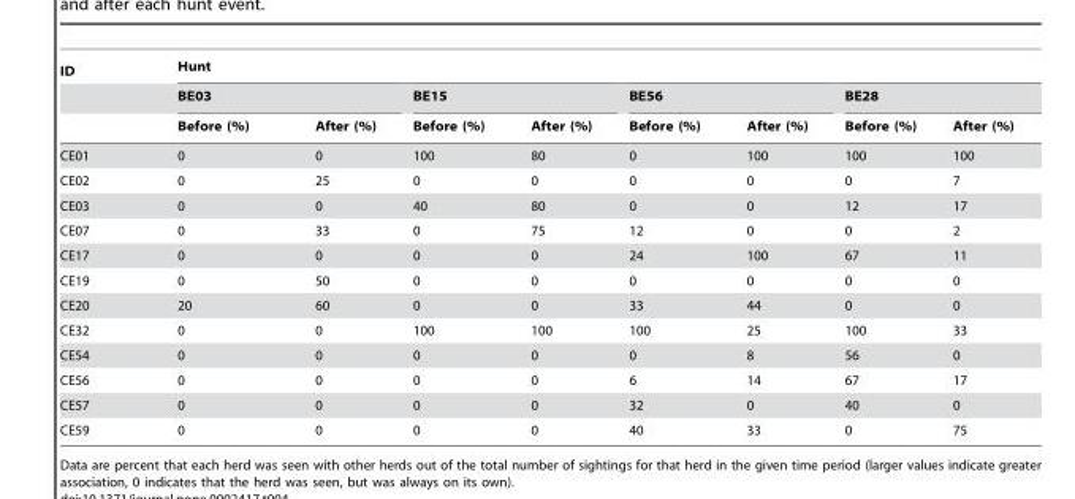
<table><thead><tr><td rowspan="3">ID</td><td colspan="8">Hunt</td></tr><tr><td colspan="2">BE03</td><td colspan="2">BE15</td><td colspan="2">BE56</td><td colspan="2">BE28</td></tr><tr><td>Before (%)</td><td>After (%)</td><td>Before (%)</td><td>After (%)</td><td>Before (%)</td><td>After (%)</td><td>Before (%)</td><td>After (%)</td></tr></thead><tbody><tr><td>CE01</td><td>0</td><td>0</td><td>100</td><td>80</td><td>0</td><td>100</td><td>100</td><td>100</td></tr><tr><td>CE02</td><td>0</td><td>25</td><td>0</td><td>0</td><td>0</td><td>0</td><td>0</td><td>7</td></tr><tr><td>CE03</td><td>0</td><td>0</td><td>40</td><td>80</td><td>0</td><td>0</td><td>12</td><td>17</td></tr><tr><td>CE07</td><td>0</td><td>33</td><td>0</td><td>75</td><td>12</td><td>0</td><td>0</td><td>2</td></tr><tr><td>CE17</td><td>0</td><td>0</td><td>0</td><td>0</td><td>24</td><td>100</td><td>67</td><td>11</td></tr><tr><td>CE19</td><td>0</td><td>50</td><td>0</td><td>0</td><td>0</td><td>0</td><td>0</td><td>0</td></tr><tr><td>CE20</td><td>20</td><td>60</td><td>0</td><td>0</td><td>33</td><td>44</td><td>0</td><td>0</td></tr><tr><td>CE32</td><td>0</td><td>0</td><td>100</td><td>100</td><td>100</td><td>25</td><td>100</td><td>33</td></tr><tr><td>CE54</td><td>0</td><td>0</td><td>0</td><td>0</td><td>0</td><td>8</td><td>56</td><td>0</td></tr><tr><td>CE56</td><td>0</td><td>0</td><td>0</td><td>0</td><td>6</td><td>14</td><td>67</td><td>17</td></tr><tr><td>CE57</td><td>0</td><td>0</td><td>0</td><td>0</td><td>32</td><td>0</td><td>40</td><td>0</td></tr><tr><td>CE59</td><td>0</td><td>0</td><td>0</td><td>0</td><td>40</td><td>33</td><td>0</td><td>75</td></tr></tbody></table>